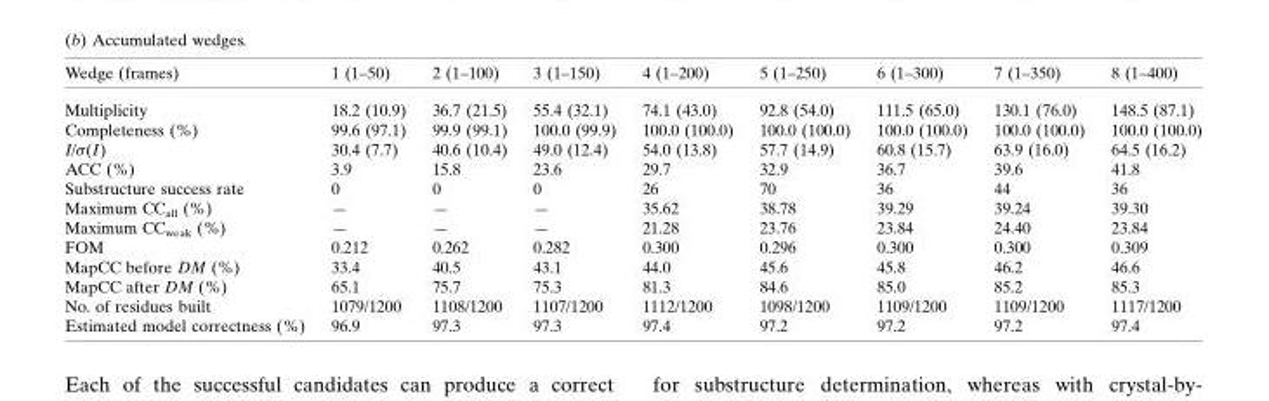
<table><thead><tr><td>Wedge (frames)</td><td>1 (1–50)</td><td>2 (1–100)</td><td>3 (1–150)</td><td>4 (1–200)</td><td>5 (1–250)</td><td>6 (1–300)</td><td>7 (1–350)</td><td>8 (1–400)</td></tr></thead><tbody><tr><td>Multiplicity</td><td>18.2 (10.9)</td><td>36.7 (21.5)</td><td>55.4 (32.1)</td><td>74.1 (43.0)</td><td>92.8 (54.0)</td><td>111.5 (65.0)</td><td>130.1 (76.0)</td><td>148.5 (87.1)</td></tr><tr><td>Completeness (%)</td><td>99.6 (97.1)</td><td>99.9 (99.1)</td><td>100.0 (99.9)</td><td>100.0 (100.0)</td><td>100.0 (100.0)</td><td>100.0 (100.0)</td><td>100.0 (100.0)</td><td>100.0 (100.0)</td></tr><tr><td>I/�(I)</td><td>30.4 (7.7)</td><td>40.6 (10.4)</td><td>49.0 (12.4)</td><td>54.0 (13.8)</td><td>57.7 (14.9)</td><td>60.8 (15.7)</td><td>63.9 (16.0)</td><td>64.5 (16.2)</td></tr><tr><td>ACC (%)</td><td>3.9</td><td>15.8</td><td>23.6</td><td>29.7</td><td>32.9</td><td>36.7</td><td>39.6</td><td>41.8</td></tr><tr><td>Substructure success rate</td><td>0</td><td>0</td><td>0</td><td>26</td><td>70</td><td>36</td><td>44</td><td>36</td></tr><tr><td>Maximum CC<sub>all</sub> (%)</td><td>—</td><td>—</td><td>—</td><td>35.62</td><td>38.78</td><td>39.29</td><td>39.24</td><td>39.30</td></tr><tr><td>Maximum CC<sub>weak</sub> (%)</td><td>—</td><td>—</td><td>—</td><td>21.28</td><td>23.76</td><td>23.84</td><td>24.40</td><td>23.84</td></tr><tr><td>FOM</td><td>0.212</td><td>0.262</td><td>0.282</td><td>0.300</td><td>0.296</td><td>0.300</td><td>0.300</td><td>0.309</td></tr><tr><td>MapCC before DM (%)</td><td>33.4</td><td>40.5</td><td>43.1</td><td>44.0</td><td>45.6</td><td>45.8</td><td>46.2</td><td>46.6</td></tr><tr><td>MapCC after DM (%)</td><td>65.1</td><td>75.7</td><td>75.3</td><td>81.3</td><td>84.6</td><td>85.0</td><td>85.2</td><td>85.3</td></tr><tr><td>No. of residues built</td><td>1079/1200</td><td>1108/1200</td><td>1107/1200</td><td>1112/1200</td><td>1098/1200</td><td>1109/1200</td><td>1109/1200</td><td>1117/1200</td></tr><tr><td>Estimated model correctness (%)</td><td>96.9</td><td>97.3</td><td>97.3</td><td>97.4</td><td>97.2</td><td>97.2</td><td>97.2</td><td>97.4</td></tr></tbody></table>